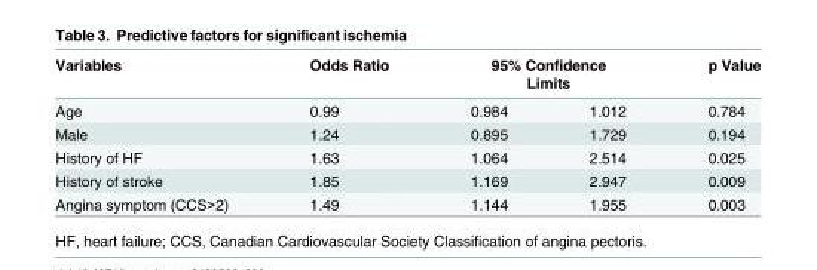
<table><thead><tr><td rowspan="2">Variables Age</td><td rowspan="2">Odds Ratio 0.99</td><td colspan="2">95% Confidence Limits</td><td rowspan="2">p Value 0.784</td></tr><tr><td>0.984</td><td>1.012</td></tr></thead><tbody><tr><td>Male</td><td>1.24</td><td>0.895</td><td>1.729</td><td>0.194</td></tr><tr><td>History of HF</td><td>1.63</td><td>1.064</td><td>2.514</td><td>0.025</td></tr><tr><td>History of stroke</td><td>1.85</td><td>1.169</td><td>2.947</td><td>0.009</td></tr><tr><td>Angina symptom (CCS&gt;2)</td><td>1.49</td><td>1.144</td><td>1.955</td><td>0.003</td></tr></tbody></table>